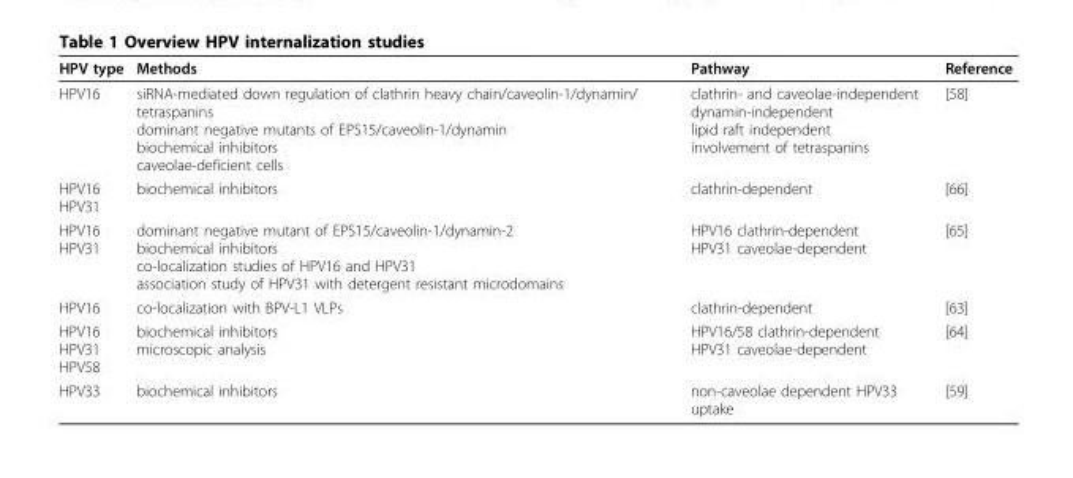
<table><thead><tr><td>HPV type</td><td>Methods</td><td>Pathway</td><td>Reference</td></tr></thead><tbody><tr><td>HPV16</td><td>siRNA-mediated down regulation of clathrin heavy chain/caveolin-1/dynamin/ tetraspanins dominant negative mutants of EPS15/caveolin-1/dynamin biochemical inhibitors caveolae-deficient cells</td><td>clathrin- and caveolae-independent dynamin-independent lipid raft independent involvement of tetraspanins</td><td>[58]</td></tr><tr><td>HPV16 HPV31</td><td>biochemical inhibitors</td><td>clathrin-dependent</td><td>[66]</td></tr><tr><td>HPV16 HPV31</td><td>dominant negative mutant of EPS15/caveolin-1/dynamin-2 biochemical inhibitors co-localization studies of HPV16 and HPV31 association study of HPV31 with detergent resistant microdomains</td><td>HPV16 clathrin-dependent HPV31 caveolae-dependent</td><td>[65]</td></tr><tr><td>HPV16</td><td>co-localization with BPV-L1 VLPs</td><td>clathrin-dependent</td><td>[63]</td></tr><tr><td>HPV16 HPV31 HPV58</td><td>biochemical inhibitors microscopic analysis</td><td>HPV16/58 clathrin-dependent HPV31 caveolae-dependent</td><td>[64]</td></tr><tr><td>HPV33</td><td>biochemical inhibitors</td><td>non-caveolae dependent HPV33 uptake</td><td>[59]</td></tr></tbody></table>